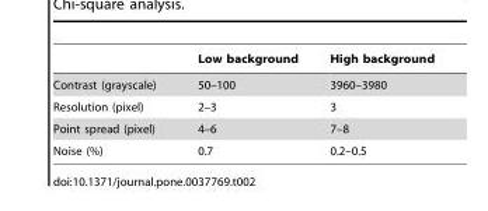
<table><thead><tr><td></td><td>Low background</td><td>High background</td></tr></thead><tbody><tr><td>Contrast (grayscale)</td><td>50–100</td><td>3960–3980</td></tr><tr><td>Resolution (pixel)</td><td>2–3</td><td>3</td></tr><tr><td>Point spread (pixel)</td><td>4–6</td><td>7–8</td></tr><tr><td>Noise (%)</td><td>0.7</td><td>0.2–0.5</td></tr></tbody></table>